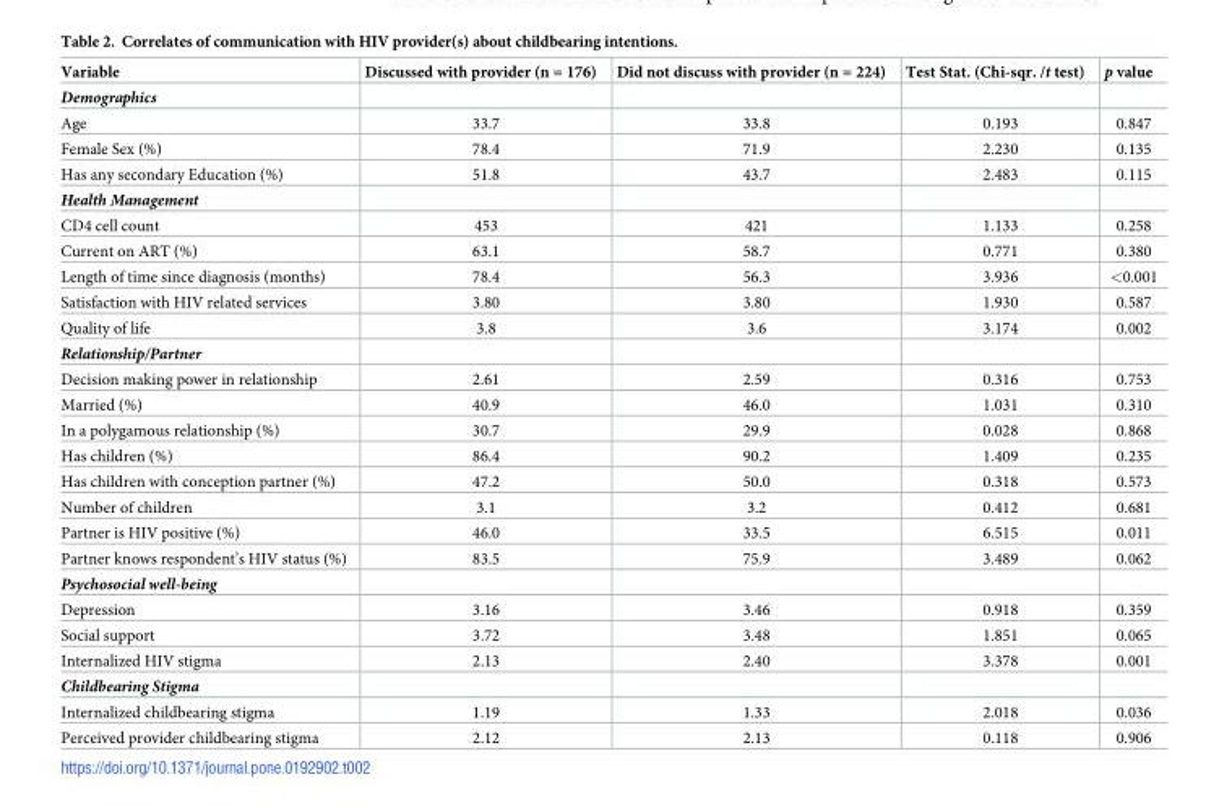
<table><thead><tr><td>Variable</td><td>Discussed with provider (n = 176)</td><td>Did not discuss with provider (n = 224)</td><td>Test Stat. (Chi-sqr. /t test)</td><td>p value</td></tr></thead><tbody><tr><td colspan="5">Demographics</td></tr><tr><td>Age</td><td>33.7</td><td>33.8</td><td>0.193</td><td>0.847</td></tr><tr><td>Female Sex (%)</td><td>78.4</td><td>71.9</td><td>2.230</td><td>0.135</td></tr><tr><td>Has any secondary Education (%)</td><td>51.8</td><td>43.7</td><td>2.483</td><td>0.115</td></tr><tr><td colspan="5">Health Management</td></tr><tr><td>CD4 cell count</td><td>453</td><td>421</td><td>1.133</td><td>0.258</td></tr><tr><td>Current on ART (%)</td><td>63.1</td><td>58.7</td><td>0.771</td><td>0.380</td></tr><tr><td>Length of time since diagnosis (months)</td><td>78.4</td><td>56.3</td><td>3.936</td><td>&lt;0.001</td></tr><tr><td>Satisfaction with HIV related services</td><td>3.80</td><td>3.80</td><td>1.930</td><td>0.587</td></tr><tr><td>Quality of life</td><td>3.8</td><td>3.6</td><td>3.174</td><td>0.002</td></tr><tr><td colspan="5">Relationship/Partner</td></tr><tr><td>Decision making power in relationship</td><td>2.61</td><td>2.59</td><td>0.316</td><td>0.753</td></tr><tr><td>Married (%)</td><td>40.9</td><td>46.0</td><td>1.031</td><td>0.310</td></tr><tr><td>In a polygamous relationship (%)</td><td>30.7</td><td>29.9</td><td>0.028</td><td>0.868</td></tr><tr><td>Has children (%)</td><td>86.4</td><td>90.2</td><td>1.409</td><td>0.235</td></tr><tr><td>Has children with conception partner (%)</td><td>47.2</td><td>50.0</td><td>0.318</td><td>0.573</td></tr><tr><td>Number of children</td><td>3.1</td><td>3.2</td><td>0.412</td><td>0.681</td></tr><tr><td>Partner is HIV positive (%)</td><td>46.0</td><td>33.5</td><td>6.515</td><td>0.011</td></tr><tr><td>Partner knows respondent’s HIV status (%)</td><td>83.5</td><td>75.9</td><td>3.489</td><td>0.062</td></tr><tr><td colspan="5">Psychosocial well-being</td></tr><tr><td>Depression</td><td>3.16</td><td>3.46</td><td>0.918</td><td>0.359</td></tr><tr><td>Social support</td><td>3.72</td><td>3.48</td><td>1.851</td><td>0.065</td></tr><tr><td>Internalized HIV stigma</td><td>2.13</td><td>2.40</td><td>3.378</td><td>0.001</td></tr><tr><td colspan="5">Childbearing Stigma</td></tr><tr><td>Internalized childbearing stigma</td><td>1.19</td><td>1.33</td><td>2.018</td><td>0.036</td></tr><tr><td>Perceived provider childbearing stigma</td><td>2.12</td><td>2.13</td><td>0.118</td><td>0.906</td></tr></tbody></table>